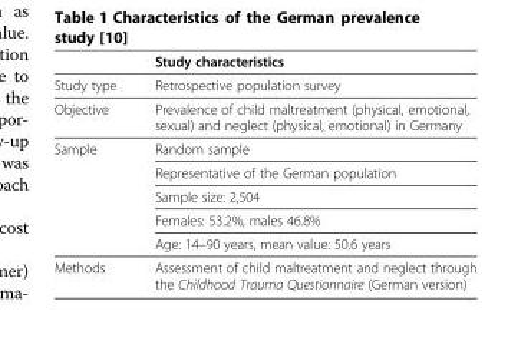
<table><thead><tr><td></td><td>Study characteristics</td></tr></thead><tbody><tr><td>Study type</td><td>Retrospective population survey</td></tr><tr><td>Objective</td><td>Prevalence of child maltreatment (physical, emotional, sexual) and neglect (physical, emotional) in Germany</td></tr><tr><td rowspan="5">Sample</td><td>Random sample</td></tr><tr><td>Representative of the German population</td></tr><tr><td>Sample size: 2,504</td></tr><tr><td>Females: 53.2%, males 46.8%</td></tr><tr><td>Age: 14–90 years, mean value: 50.6 years</td></tr><tr><td>Methods</td><td>Assessment of child maltreatment and neglect through the Childhood Trauma Questionnaire (German version)</td></tr></tbody></table>